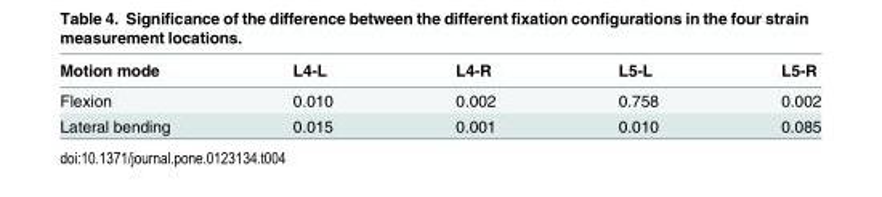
<table><thead><tr><td>Motion mode</td><td>L4-L</td><td>L4-R</td><td>L5-L</td><td>L5-R</td></tr></thead><tbody><tr><td>Flexion</td><td>0.010</td><td>0.002</td><td>0.758</td><td>0.002</td></tr><tr><td>Lateral bending</td><td>0.015</td><td>0.001</td><td>0.010</td><td>0.085</td></tr></tbody></table>